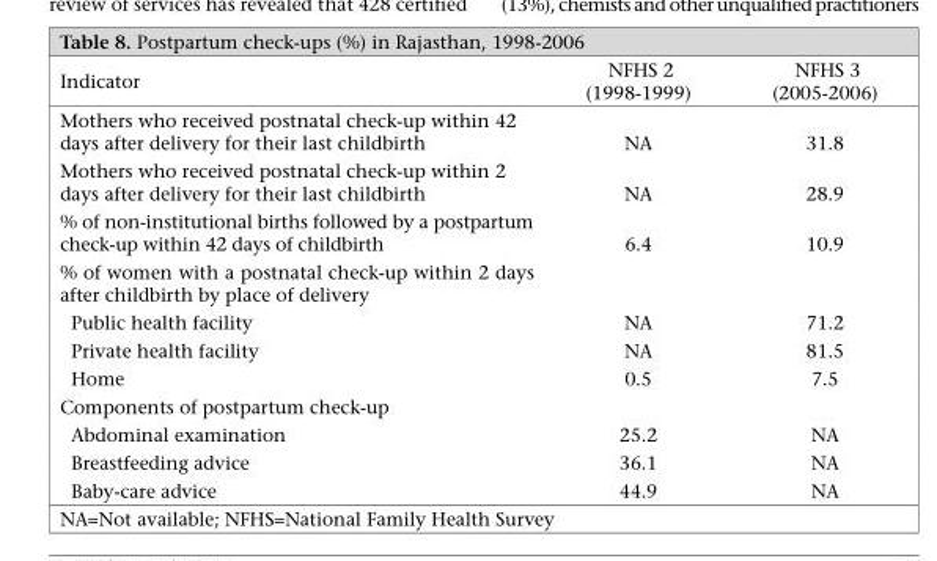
<table><thead><tr><td>Indicator</td><td>NFHS 2 (1998-1999)</td><td>NFHS 3 (2005-2006)</td></tr></thead><tbody><tr><td>Mothers who received postnatal check-up within 42 days after delivery for their last childbirth</td><td>NA</td><td>31.8</td></tr><tr><td>Mothers who received postnatal check-up within 2 days after delivery for their last childbirth</td><td>NA</td><td>28.9</td></tr><tr><td>% of non-institutional births followed by a postpartum check-up within 42 days of childbirth</td><td>6.4</td><td>10.9</td></tr><tr><td colspan="3">% of women with a postnatal check-up within 2 days after childbirth by place of delivery</td></tr><tr><td>Public health facility</td><td>NA</td><td>71.2</td></tr><tr><td>Private health facility</td><td>NA</td><td>81.5</td></tr><tr><td>Home</td><td>0.5</td><td>7.5</td></tr><tr><td colspan="3">Components of postpartum check-up</td></tr><tr><td>Abdominal examination</td><td>25.2</td><td>NA</td></tr><tr><td>Breastfeeding advice</td><td>36.1</td><td>NA</td></tr><tr><td>Baby-care advice</td><td>44.9</td><td>NA</td></tr></tbody></table>